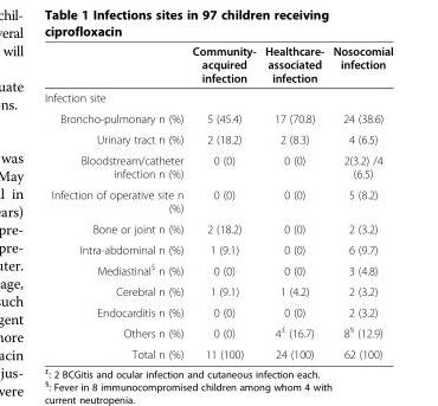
<table><thead><tr><td></td><td>Community- acquired infection</td><td>Healthcare- associated infection</td><td>Nosocomial infection</td></tr></thead><tbody><tr><td colspan="4">Infection site</td></tr><tr><td>Broncho-pulmonary n (%)</td><td>5 (45.4)</td><td>17 (70.8)</td><td>24 (38.6)</td></tr><tr><td>Urinary tract n (%)</td><td>2 (18.2)</td><td>2 (8.3)</td><td>4 (6.5)</td></tr><tr><td>Bloodstream/catheter infection n (%)</td><td>0 (0)</td><td>0 (0)</td><td>2(3.2) /4 (6.5)</td></tr><tr><td>Infection of operative site n (%)</td><td>0 (0)</td><td>0 (0)</td><td>5 (8.2)</td></tr><tr><td>Bone or joint n (%)</td><td>2 (18.2)</td><td>0 (0)</td><td>2 (3.2)</td></tr><tr><td>Intra-abdominal n (%)</td><td>1 (9.1)</td><td>0 (0)</td><td>6 (9.7)</td></tr><tr><td>Mediastinal<sup>$</sup> n (%)</td><td>0 (0)</td><td>0 (0)</td><td>3 (4.8)</td></tr><tr><td>Cerebral n (%)</td><td>1 (9.1)</td><td>1 (4.2)</td><td>2 (3.2)</td></tr><tr><td>Endocarditis n (%)</td><td>0 (0)</td><td>0 (0)</td><td>2 (3.2)</td></tr><tr><td>Others n (%)</td><td>0 (0)</td><td>4<sup>£</sup> (16.7)</td><td>8<sup>§</sup> (12.9)</td></tr><tr><td>Total n (%)</td><td>11 (100)</td><td>24 (100)</td><td>62 (100)</td></tr></tbody></table>